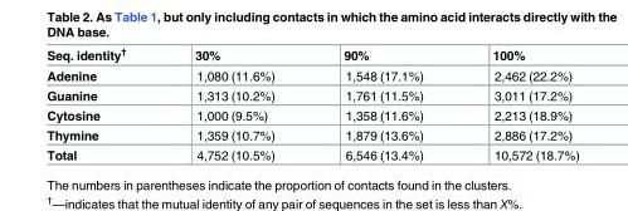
<table><thead><tr><td>Seq. identity<sup>†</sup></td><td>30%</td><td>90%</td><td>100%</td></tr></thead><tbody><tr><td>Adenine</td><td>1,080 (11.6%)</td><td>1,548 (17.1%)</td><td>2,462 (22.2%)</td></tr><tr><td>Guanine</td><td>1,313 (10.2%)</td><td>1,761 (11.5%)</td><td>3,011 (17.2%)</td></tr><tr><td>Cytosine</td><td>1,000 (9.5%)</td><td>1,358 (11.6%)</td><td>2,213 (18.9%)</td></tr><tr><td>Thymine</td><td>1,359 (10.7%)</td><td>1,879 (13.6%)</td><td>2,886 (17.2%)</td></tr><tr><td>Total</td><td>4,752 (10.5%)</td><td>6,546 (13.4%)</td><td>10,572 (18.7%)</td></tr></tbody></table>